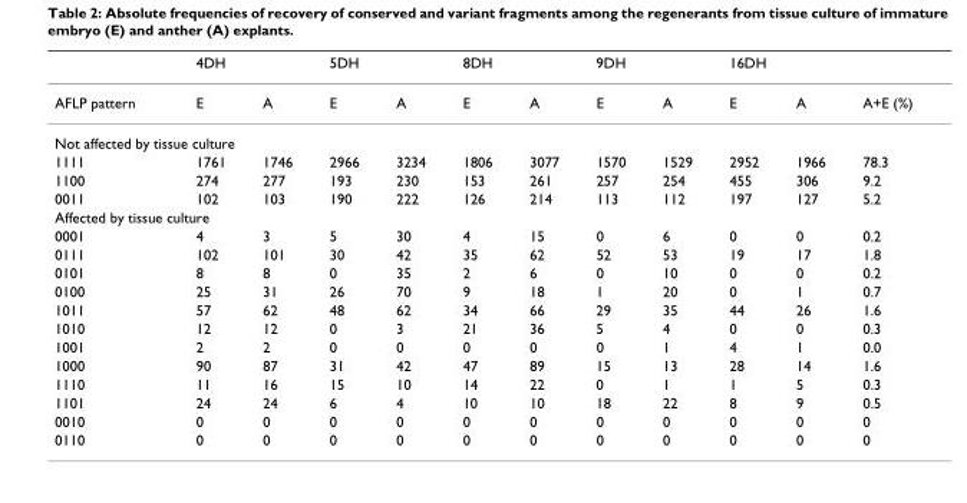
<table><thead><tr><td rowspan="2">AFLP pattern</td><td colspan="2">4DH</td><td colspan="2">5DH</td><td colspan="2">8DH</td><td colspan="2">9DH</td><td colspan="2">16DH</td><td rowspan="2">A+E (%)</td></tr><tr><td>E</td><td>A</td><td>E</td><td>A</td><td>E</td><td>A</td><td>E</td><td>A</td><td>E</td><td>A</td></tr></thead><tbody><tr><td colspan="12">Not affected by tissue culture</td></tr><tr><td>1111</td><td>1761</td><td>1746</td><td>2966</td><td>3234</td><td>1806</td><td>3077</td><td>1570</td><td>1529</td><td>2952</td><td>1966</td><td>78.3</td></tr><tr><td>1100</td><td>274</td><td>277</td><td>193</td><td>230</td><td>153</td><td>261</td><td>257</td><td>254</td><td>455</td><td>306</td><td>9.2</td></tr><tr><td>0011</td><td>102</td><td>103</td><td>190</td><td>222</td><td>126</td><td>214</td><td>113</td><td>112</td><td>197</td><td>127</td><td>5.2</td></tr><tr><td colspan="12">Affected by tissue culture</td></tr><tr><td>0001</td><td>4</td><td>3</td><td>5</td><td>30</td><td>4</td><td>15</td><td>0</td><td>6</td><td>0</td><td>0</td><td>0.2</td></tr><tr><td>0111</td><td>102</td><td>101</td><td>30</td><td>42</td><td>35</td><td>62</td><td>52</td><td>53</td><td>19</td><td>17</td><td>1.8</td></tr><tr><td>0101</td><td>8</td><td>8</td><td>0</td><td>35</td><td>2</td><td>6</td><td>0</td><td>10</td><td>0</td><td>0</td><td>0.2</td></tr><tr><td>0100</td><td>25</td><td>31</td><td>26</td><td>70</td><td>9</td><td>18</td><td>1</td><td>20</td><td>0</td><td>1</td><td>0.7</td></tr><tr><td>1011</td><td>57</td><td>62</td><td>48</td><td>62</td><td>34</td><td>66</td><td>29</td><td>35</td><td>44</td><td>26</td><td>1.6</td></tr><tr><td>1010</td><td>12</td><td>12</td><td>0</td><td>3</td><td>21</td><td>36</td><td>5</td><td>4</td><td>0</td><td>0</td><td>0.3</td></tr><tr><td>1001</td><td>2</td><td>2</td><td>0</td><td>0</td><td>0</td><td>0</td><td>0</td><td>1</td><td>4</td><td>1</td><td>0.0</td></tr><tr><td>1000</td><td>90</td><td>87</td><td>31</td><td>42</td><td>47</td><td>89</td><td>15</td><td>13</td><td>28</td><td>14</td><td>1.6</td></tr><tr><td>1110</td><td>11</td><td>16</td><td>15</td><td>10</td><td>14</td><td>22</td><td>0</td><td>1</td><td>1</td><td>5</td><td>0.3</td></tr><tr><td>1101</td><td>24</td><td>24</td><td>6</td><td>4</td><td>10</td><td>10</td><td>18</td><td>22</td><td>8</td><td>9</td><td>0.5</td></tr><tr><td>0010</td><td>0</td><td>0</td><td>0</td><td>0</td><td>0</td><td>0</td><td>0</td><td>0</td><td>0</td><td>0</td><td>0</td></tr><tr><td>0110</td><td>0</td><td>0</td><td>0</td><td>0</td><td>0</td><td>0</td><td>0</td><td>0</td><td>0</td><td>0</td><td>0</td></tr></tbody></table>